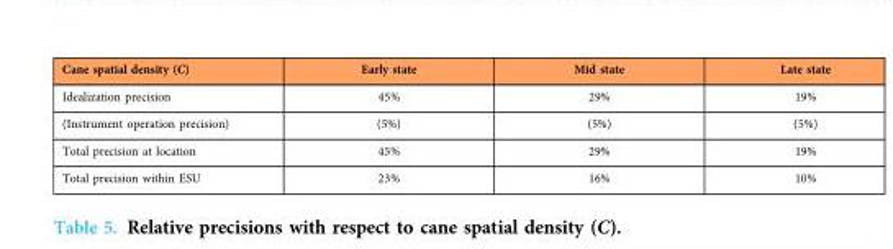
<table><thead><tr><td>Cane spatial density (C)</td><td>Early state</td><td>Mid state</td><td>Late state</td></tr></thead><tbody><tr><td>Idealization precision</td><td>45%</td><td>29%</td><td>19%</td></tr><tr><td>(Instrument operation precision)</td><td>(5%)</td><td>(5%)</td><td>(5%)</td></tr><tr><td>Total precision at location</td><td>45%</td><td>29%</td><td>19%</td></tr><tr><td>Total precision within ESU</td><td>23%</td><td>16%</td><td>10%</td></tr></tbody></table>